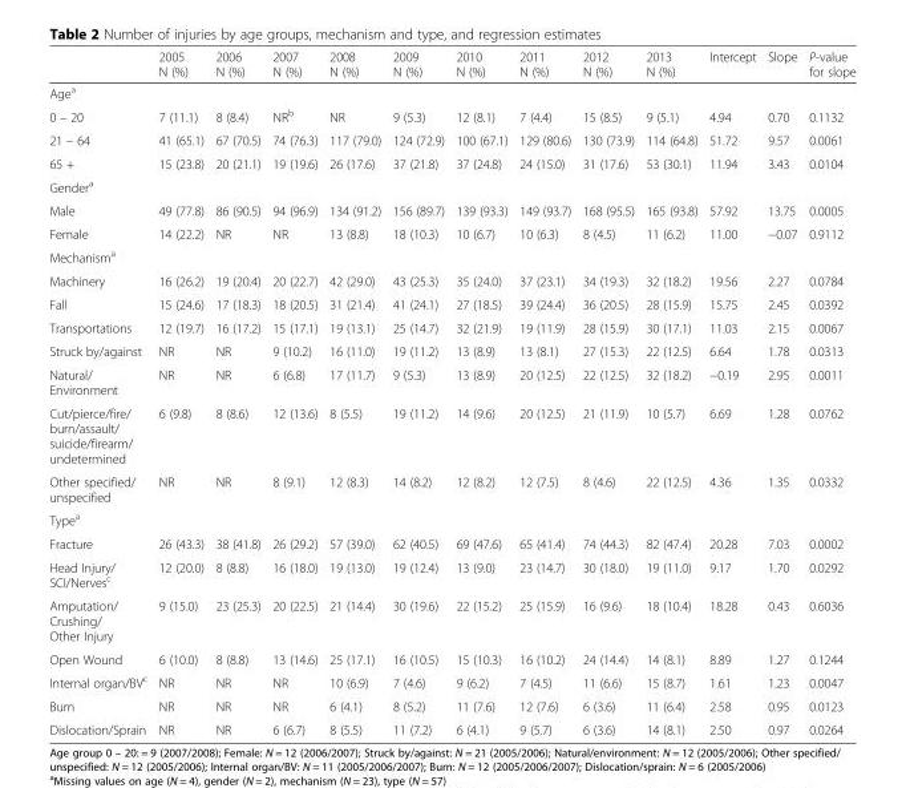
<table><thead><tr><td></td><td>2005 N (%)</td><td>2006 N (%)</td><td>2007 N (%)</td><td>2008 N (%)</td><td>2009 N (%)</td><td>2010 N (%)</td><td>2011 N (%)</td><td>2012 N (%)</td><td>2013 N (%)</td><td>Intercept</td><td>Slope</td><td>P-value for slope</td></tr></thead><tbody><tr><td colspan="13">Age<sup>a</sup></td></tr><tr><td>0 – 20</td><td>7 (11.1)</td><td>8 (8.4)</td><td>NR<sup>b</sup></td><td>NR</td><td>9 (5.3)</td><td>12 (8.1)</td><td>7 (4.4)</td><td>15 (8.5)</td><td>9 (5.1)</td><td>4.94</td><td>0.70</td><td>0.1132</td></tr><tr><td>21 – 64</td><td>41 (65.1)</td><td>67 (70.5)</td><td>74 (76.3)</td><td>117 (79.0)</td><td>124 (72.9)</td><td>100 (67.1)</td><td>129 (80.6)</td><td>130 (73.9)</td><td>114 (64.8)</td><td>51.72</td><td>9.57</td><td>0.0061</td></tr><tr><td>65 +</td><td>15 (23.8)</td><td>20 (21.1)</td><td>19 (19.6)</td><td>26 (17.6)</td><td>37 (21.8)</td><td>37 (24.8)</td><td>24 (15.0)</td><td>31 (17.6)</td><td>53 (30.1)</td><td>11.94</td><td>3.43</td><td>0.0104</td></tr><tr><td colspan="13">Gender<sup>a</sup></td></tr><tr><td>Male</td><td>49 (77.8)</td><td>86 (90.5)</td><td>94 (96.9)</td><td>134 (91.2)</td><td>156 (89.7)</td><td>139 (93.3)</td><td>149 (93.7)</td><td>168 (95.5)</td><td>165 (93.8)</td><td>57.92</td><td>13.75</td><td>0.0005</td></tr><tr><td>Female</td><td>14 (22.2)</td><td>NR</td><td>NR</td><td>13 (8.8)</td><td>18 (10.3)</td><td>10 (6.7)</td><td>10 (6.3)</td><td>8 (4.5)</td><td>11 (6.2)</td><td>11.00</td><td>−0.07</td><td>0.9112</td></tr><tr><td colspan="13">Mechanism<sup>a</sup></td></tr><tr><td>Machinery</td><td>16 (26.2)</td><td>19 (20.4)</td><td>20 (22.7)</td><td>42 (29.0)</td><td>43 (25.3)</td><td>35 (24.0)</td><td>37 (23.1)</td><td>34 (19.3)</td><td>32 (18.2)</td><td>19.56</td><td>2.27</td><td>0.0784</td></tr><tr><td>Fall</td><td>15 (24.6)</td><td>17 (18.3)</td><td>18 (20.5)</td><td>31 (21.4)</td><td>41 (24.1)</td><td>27 (18.5)</td><td>39 (24.4)</td><td>36 (20.5)</td><td>28 (15.9)</td><td>15.75</td><td>2.45</td><td>0.0392</td></tr><tr><td>Transportations</td><td>12 (19.7)</td><td>16 (17.2)</td><td>15 (17.1)</td><td>19 (13.1)</td><td>25 (14.7)</td><td>32 (21.9)</td><td>19 (11.9)</td><td>28 (15.9)</td><td>30 (17.1)</td><td>11.03</td><td>2.15</td><td>0.0067</td></tr><tr><td>Struck by/against</td><td>NR</td><td>NR</td><td>9 (10.2)</td><td>16 (11.0)</td><td>19 (11.2)</td><td>13 (8.9)</td><td>13 (8.1)</td><td>27 (15.3)</td><td>22 (12.5)</td><td>6.64</td><td>1.78</td><td>0.0313</td></tr><tr><td>Natural/ Environment</td><td>NR</td><td>NR</td><td>6 (6.8)</td><td>17 (11.7)</td><td>9 (5.3)</td><td>13 (8.9)</td><td>20 (12.5)</td><td>22 (12.5)</td><td>32 (18.2)</td><td>−0.19</td><td>2.95</td><td>0.0011</td></tr><tr><td>Cut/pierce/fire/ burn/assault/ suicide/firearm/ undetermined</td><td>6 (9.8)</td><td>8 (8.6)</td><td>12 (13.6)</td><td>8 (5.5)</td><td>19 (11.2)</td><td>14 (9.6)</td><td>20 (12.5)</td><td>21 (11.9)</td><td>10 (5.7)</td><td>6.69</td><td>1.28</td><td>0.0762</td></tr><tr><td>Other specified/ unspecified</td><td>NR</td><td>NR</td><td>8 (9.1)</td><td>12 (8.3)</td><td>14 (8.2)</td><td>12 (8.2)</td><td>12 (7.5)</td><td>8 (4.6)</td><td>22 (12.5)</td><td>4.36</td><td>1.35</td><td>0.0332</td></tr><tr><td colspan="13">Type<sup>a</sup></td></tr><tr><td>Fracture</td><td>26 (43.3)</td><td>38 (41.8)</td><td>26 (29.2)</td><td>57 (39.0)</td><td>62 (40.5)</td><td>69 (47.6)</td><td>65 (41.4)</td><td>74 (44.3)</td><td>82 (47.4)</td><td>20.28</td><td>7.03</td><td>0.0002</td></tr><tr><td>Head Injury/ SCI/Nerves<sup>c</sup></td><td>12 (20.0)</td><td>8 (8.8)</td><td>16 (18.0)</td><td>19 (13.0)</td><td>19 (12.4)</td><td>13 (9.0)</td><td>23 (14.7)</td><td>30 (18.0)</td><td>19 (11.0)</td><td>9.17</td><td>1.70</td><td>0.0292</td></tr><tr><td>Amputation/ Crushing/ Other Injury</td><td>9 (15.0)</td><td>23 (25.3)</td><td>20 (22.5)</td><td>21 (14.4)</td><td>30 (19.6)</td><td>22 (15.2)</td><td>25 (15.9)</td><td>16 (9.6)</td><td>18 (10.4)</td><td>18.28</td><td>0.43</td><td>0.6036</td></tr><tr><td>Open Wound</td><td>6 (10.0)</td><td>8 (8.8)</td><td>13 (14.6)</td><td>25 (17.1)</td><td>16 (10.5)</td><td>15 (10.3)</td><td>16 (10.2)</td><td>24 (14.4)</td><td>14 (8.1)</td><td>8.89</td><td>1.27</td><td>0.1244</td></tr><tr><td>Internal organ/BV<sup>c</sup></td><td>NR</td><td>NR</td><td>NR</td><td>10 (6.9)</td><td>7 (4.6)</td><td>9 (6.2)</td><td>7 (4.5)</td><td>11 (6.6)</td><td>15 (8.7)</td><td>1.61</td><td>1.23</td><td>0.0047</td></tr><tr><td>Burn</td><td>NR</td><td>NR</td><td>NR</td><td>6 (4.1)</td><td>8 (5.2)</td><td>11 (7.6)</td><td>12 (7.6)</td><td>6 (3.6)</td><td>11 (6.4)</td><td>2.58</td><td>0.95</td><td>0.0123</td></tr><tr><td>Dislocation/Sprain</td><td>NR</td><td>NR</td><td>6 (6.7)</td><td>8 (5.5)</td><td>11 (7.2)</td><td>6 (4.1)</td><td>9 (5.7)</td><td>6 (3.6)</td><td>14 (8.1)</td><td>2.50</td><td>0.97</td><td>0.0264</td></tr></tbody></table>